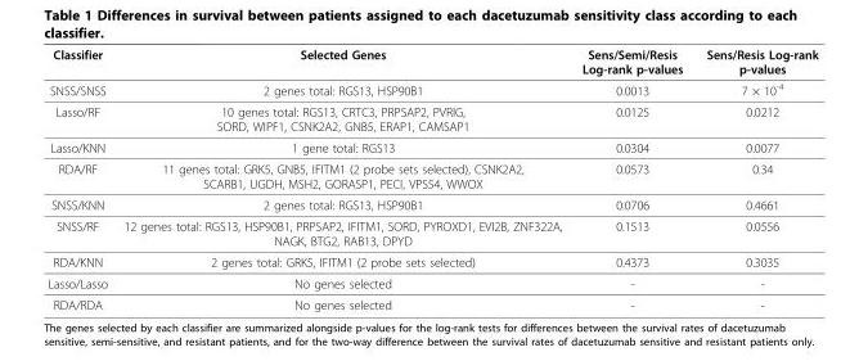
<table><thead><tr><td>Classifier</td><td>Selected Genes</td><td>Sens/Semi/Resis Log-rank p-values</td><td>Sens/Resis Log-rank p-values</td></tr></thead><tbody><tr><td>SNSS/SNSS</td><td>2 genes total: RGS13, HSP90B1</td><td>0.0013</td><td>7 × 10<sup>-4</sup></td></tr><tr><td>Lasso/RF</td><td>10 genes total: RGS13, CRTC3, PRPSAP2, PVRIG, SORD, WIPF1, CSNK2A2, GNB5, ERAP1, CAMSAP1</td><td>0.0125</td><td>0.0212</td></tr><tr><td>Lasso/KNN</td><td>1 gene total: RGS13</td><td>0.0304</td><td>0.0077</td></tr><tr><td>RDA/RF</td><td>11 genes total: GRK5, GNB5, IFITM1 (2 probe sets selected), CSNK2A2, SCARB1, UGDH, MSH2, GORASP1, PECI, VPS54, WWOX</td><td>0.0573</td><td>0.34</td></tr><tr><td>SNSS/KNN</td><td>2 genes total: RGS13, HSP90B1</td><td>0.0706</td><td>0.4661</td></tr><tr><td>SNSS/RF</td><td>12 genes total: RGS13, HSP90B1, PRPSAP2, IFITM1, SORD, PYROXD1, EVI2B, ZNF322A, NAGK, BTG2, RAB13, DPYD</td><td>0.1513</td><td>0.0556</td></tr><tr><td>RDA/KNN</td><td>2 genes total: GRK5, IFITM1 (2 probe sets selected)</td><td>0.4373</td><td>0.3035</td></tr><tr><td>Lasso/Lasso</td><td>No genes selected</td><td>-</td><td>-</td></tr><tr><td>RDA/RDA</td><td>No genes selected</td><td>-</td><td>-</td></tr></tbody></table>